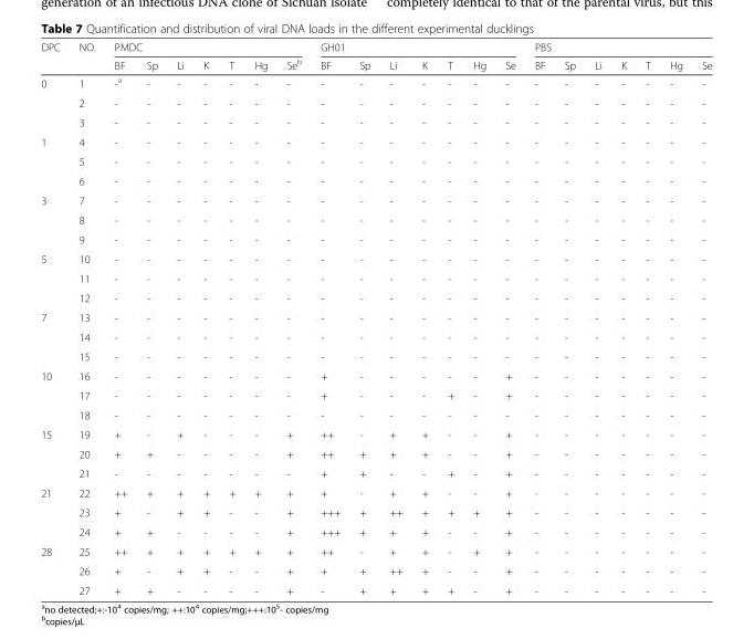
<table><thead><tr><td rowspan="2">DPC</td><td rowspan="2">NO.</td><td colspan="7">PMDC</td><td colspan="7">GH01</td><td colspan="7">PBS</td></tr><tr><td>BF</td><td>Sp</td><td>Li</td><td>K</td><td>T</td><td>Hg</td><td>Se<sup>b</sup></td><td>BF</td><td>Sp</td><td>Li</td><td>K</td><td>T</td><td>Hg</td><td>Se</td><td>BF</td><td>Sp</td><td>Li</td><td>K</td><td>T</td><td>Hg</td><td>Se</td></tr></thead><tbody><tr><td rowspan="3">0</td><td>1</td><td>-<sup>a</sup></td><td>-</td><td>-</td><td>-</td><td>-</td><td>-</td><td>-</td><td>-</td><td>-</td><td>-</td><td>-</td><td>-</td><td>-</td><td>-</td><td>-</td><td>-</td><td>-</td><td>-</td><td>-</td><td>-</td><td>-</td></tr><tr><td>2</td><td>-</td><td>-</td><td>-</td><td>-</td><td>-</td><td>-</td><td>-</td><td>-</td><td>-</td><td>-</td><td>-</td><td>-</td><td>-</td><td>-</td><td>-</td><td>-</td><td>-</td><td>-</td><td>-</td><td>-</td><td>-</td></tr><tr><td>3</td><td>-</td><td>-</td><td>-</td><td>-</td><td>-</td><td>-</td><td>-</td><td>-</td><td>-</td><td>-</td><td>-</td><td>-</td><td>-</td><td>-</td><td>-</td><td>-</td><td>-</td><td>-</td><td>-</td><td>-</td><td>-</td></tr><tr><td rowspan="3">1</td><td>4</td><td>-</td><td>-</td><td>-</td><td>-</td><td>-</td><td>-</td><td>-</td><td>-</td><td>-</td><td>-</td><td>-</td><td>-</td><td>-</td><td>-</td><td>-</td><td>-</td><td>-</td><td>-</td><td>-</td><td>-</td><td>-</td></tr><tr><td>5</td><td>-</td><td>-</td><td>-</td><td>-</td><td>-</td><td>-</td><td>-</td><td>-</td><td>-</td><td>-</td><td>-</td><td>-</td><td>-</td><td>-</td><td>-</td><td>-</td><td>-</td><td>-</td><td>-</td><td>-</td><td>-</td></tr><tr><td>6</td><td>-</td><td>-</td><td>-</td><td>-</td><td>-</td><td>-</td><td>-</td><td>-</td><td>-</td><td>-</td><td>-</td><td>-</td><td>-</td><td>-</td><td>-</td><td>-</td><td>-</td><td>-</td><td>-</td><td>-</td><td>-</td></tr><tr><td rowspan="3">3</td><td>7</td><td>-</td><td>-</td><td>-</td><td>-</td><td>-</td><td>-</td><td>-</td><td>-</td><td>-</td><td>-</td><td>-</td><td>-</td><td>-</td><td>-</td><td>-</td><td>-</td><td>-</td><td>-</td><td>-</td><td>-</td><td>-</td></tr><tr><td>8</td><td>-</td><td>-</td><td>-</td><td>-</td><td>-</td><td>-</td><td>-</td><td>-</td><td>-</td><td>-</td><td>-</td><td>-</td><td>-</td><td>-</td><td>-</td><td>-</td><td>-</td><td>-</td><td>-</td><td>-</td><td>-</td></tr><tr><td>9</td><td>-</td><td>-</td><td>-</td><td>-</td><td>-</td><td>-</td><td>-</td><td>-</td><td>-</td><td>-</td><td>-</td><td>-</td><td>-</td><td>-</td><td>-</td><td>-</td><td>-</td><td>-</td><td>-</td><td>-</td><td>-</td></tr><tr><td rowspan="3">5</td><td>10</td><td>-</td><td>-</td><td>-</td><td>-</td><td>-</td><td>-</td><td>-</td><td>-</td><td>-</td><td>-</td><td>-</td><td>-</td><td>-</td><td>-</td><td>-</td><td>-</td><td>-</td><td>-</td><td>-</td><td>-</td><td>-</td></tr><tr><td>11</td><td>-</td><td>-</td><td>-</td><td>-</td><td>-</td><td>-</td><td>-</td><td>-</td><td>-</td><td>-</td><td>-</td><td>-</td><td>-</td><td>-</td><td>-</td><td>-</td><td>-</td><td>-</td><td>-</td><td>-</td><td>-</td></tr><tr><td>12</td><td>-</td><td>-</td><td>-</td><td>-</td><td>-</td><td>-</td><td>-</td><td>-</td><td>-</td><td>-</td><td>-</td><td>-</td><td>-</td><td>-</td><td>-</td><td>-</td><td>-</td><td>-</td><td>-</td><td>-</td><td>-</td></tr><tr><td rowspan="3">7</td><td>13</td><td>-</td><td>-</td><td>-</td><td>-</td><td>-</td><td>-</td><td>-</td><td>-</td><td>-</td><td>-</td><td>-</td><td>-</td><td>-</td><td>-</td><td>-</td><td>-</td><td>-</td><td>-</td><td>-</td><td>-</td><td>-</td></tr><tr><td>14</td><td>-</td><td>-</td><td>-</td><td>-</td><td>-</td><td>-</td><td>-</td><td>-</td><td>-</td><td>-</td><td>-</td><td>-</td><td>-</td><td>-</td><td>-</td><td>-</td><td>-</td><td>-</td><td>-</td><td>-</td><td>-</td></tr><tr><td>15</td><td>-</td><td>-</td><td>-</td><td>-</td><td>-</td><td>-</td><td>-</td><td>-</td><td>-</td><td>-</td><td>-</td><td>-</td><td>-</td><td>-</td><td>-</td><td>-</td><td>-</td><td>-</td><td>-</td><td>-</td><td>-</td></tr><tr><td rowspan="3">10</td><td>16</td><td>-</td><td>-</td><td>-</td><td>-</td><td>-</td><td>-</td><td>-</td><td>+</td><td>-</td><td>-</td><td>-</td><td>-</td><td>-</td><td>+</td><td>-</td><td>-</td><td>-</td><td>-</td><td>-</td><td>-</td><td>-</td></tr><tr><td>17</td><td>-</td><td>-</td><td>-</td><td>-</td><td>-</td><td>-</td><td>-</td><td>+</td><td>-</td><td>-</td><td>-</td><td>+</td><td>-</td><td>+</td><td>-</td><td>-</td><td>-</td><td>-</td><td>-</td><td>-</td><td>-</td></tr><tr><td>18</td><td>-</td><td>-</td><td>-</td><td>-</td><td>-</td><td>-</td><td>-</td><td>-</td><td>-</td><td>-</td><td>-</td><td>-</td><td>-</td><td>-</td><td>-</td><td>-</td><td>-</td><td>-</td><td>-</td><td>-</td><td>-</td></tr><tr><td rowspan="3">15</td><td>19</td><td>+</td><td>-</td><td>+</td><td>-</td><td>-</td><td>-</td><td>+</td><td>++</td><td>-</td><td>+</td><td>+</td><td>-</td><td>-</td><td>+</td><td>-</td><td>-</td><td>-</td><td>-</td><td>-</td><td>-</td><td>-</td></tr><tr><td>20</td><td>+</td><td>+</td><td>-</td><td>-</td><td>-</td><td>-</td><td>+</td><td>++</td><td>+</td><td>+</td><td>+</td><td>-</td><td>-</td><td>+</td><td>-</td><td>-</td><td>-</td><td>-</td><td>-</td><td>-</td><td>-</td></tr><tr><td>21</td><td>-</td><td>-</td><td>-</td><td>-</td><td>-</td><td>-</td><td>-</td><td>+</td><td>+</td><td>-</td><td>-</td><td>+</td><td>-</td><td>+</td><td>-</td><td>-</td><td>-</td><td>-</td><td>-</td><td>-</td><td>-</td></tr><tr><td rowspan="3">21</td><td>22</td><td>++</td><td>+</td><td>+</td><td>+</td><td>+</td><td>+</td><td>+</td><td>+</td><td>-</td><td>+</td><td>+</td><td>-</td><td>-</td><td>+</td><td>-</td><td>-</td><td>-</td><td>-</td><td>-</td><td>-</td><td>-</td></tr><tr><td>23</td><td>+</td><td>-</td><td>+</td><td>+</td><td>-</td><td>-</td><td>+</td><td>+++</td><td>+</td><td>++</td><td>+</td><td>+</td><td>+</td><td>+</td><td>-</td><td>-</td><td>-</td><td>-</td><td>-</td><td>-</td><td>-</td></tr><tr><td>24</td><td>+</td><td>+</td><td>-</td><td>-</td><td>-</td><td>-</td><td>+</td><td>+++</td><td>+</td><td>+</td><td>+</td><td>-</td><td>-</td><td>+</td><td>-</td><td>-</td><td>-</td><td>-</td><td>-</td><td>-</td><td>-</td></tr><tr><td rowspan="3">28</td><td>25</td><td>++</td><td>+</td><td>+</td><td>+</td><td>+</td><td>+</td><td>+</td><td>++</td><td>-</td><td>+</td><td>+</td><td>-</td><td>+</td><td>+</td><td>-</td><td>-</td><td>-</td><td>-</td><td>-</td><td>-</td><td>-</td></tr><tr><td>26</td><td>+</td><td>-</td><td>+</td><td>+</td><td>-</td><td>-</td><td>+</td><td>+</td><td>+</td><td>++</td><td>+</td><td>-</td><td>-</td><td>+</td><td>-</td><td>-</td><td>-</td><td>-</td><td>-</td><td>-</td><td>-</td></tr><tr><td>27</td><td>+</td><td>+</td><td>-</td><td>-</td><td>-</td><td>-</td><td>+</td><td>-</td><td>+</td><td>+</td><td>+</td><td>+</td><td>-</td><td>+</td><td>-</td><td>-</td><td>-</td><td>-</td><td>-</td><td>-</td><td>-</td></tr></tbody></table>